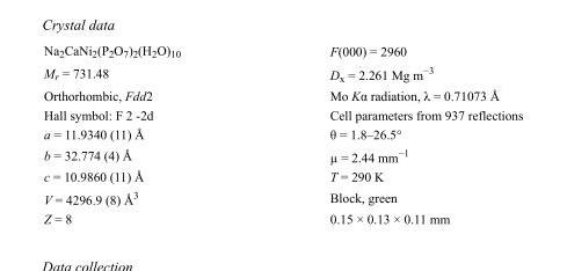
<table><tbody><tr><td>Na<sub>2</sub>CaNi<sub>2</sub>(P<sub>2</sub>O<sub>7</sub>)<sub>2</sub>(H<sub>2</sub>O)<sub>10</sub></td><td>F(000) = 2960</td></tr><tr><td>M<sub>r</sub> = 731.48</td><td>D<sub>x</sub> = 2.261 Mg m<sup>−3</sup></td></tr><tr><td>Orthorhombic, Fdd2</td><td>Mo Kα radiation, λ = 0.71073 Å</td></tr><tr><td>Hall symbol: F 2 -2d</td><td>Cell parameters from 937 reflections</td></tr><tr><td>a = 11.9340 (11) Å</td><td>θ = 1.8–26.5°</td></tr><tr><td>b = 32.774 (4) Å</td><td>µ = 2.44 mm<sup>−1</sup></td></tr><tr><td>c = 10.9860 (11) Å</td><td>T = 290 K</td></tr><tr><td>V = 4296.9 (8) Å<sup>3</sup></td><td>Block, green</td></tr><tr><td>Z = 8</td><td>0.15 × 0.13 × 0.11 mm</td></tr></tbody></table>